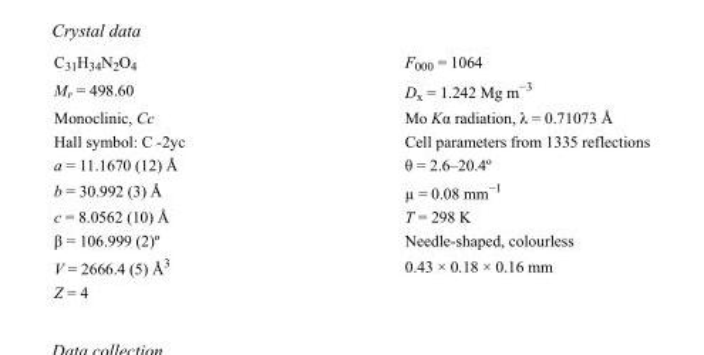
<table><tbody><tr><td>C<sub>31</sub>H<sub>34</sub>N<sub>2</sub>O<sub>4</sub></td><td>F000 = 1064</td></tr><tr><td>M<sub>r</sub> = 498.60</td><td>D<sub>x</sub> = 1.242 Mg m<sup>−3</sup></td></tr><tr><td>Monoclinic, Cc</td><td>Mo Kα radiation, λ = 0.71073 Å</td></tr><tr><td>Hall symbol: C -2yc</td><td>Cell parameters from 1335 reflections</td></tr><tr><td>a = 11.1670 (12) Å</td><td>θ = 2.6–20.4º</td></tr><tr><td>b = 30.992 (3) Å</td><td>µ = 0.08 mm<sup>−1</sup></td></tr><tr><td>c = 8.0562 (10) Å</td><td>T = 298 K</td></tr><tr><td>β = 106.999 (2)º</td><td>Needle-shaped, colourless</td></tr><tr><td>V = 2666.4 (5) Å<sup>3</sup></td><td>0.43 × 0.18 × 0.16 mm</td></tr><tr><td>Z = 4</td><td></td></tr></tbody></table>